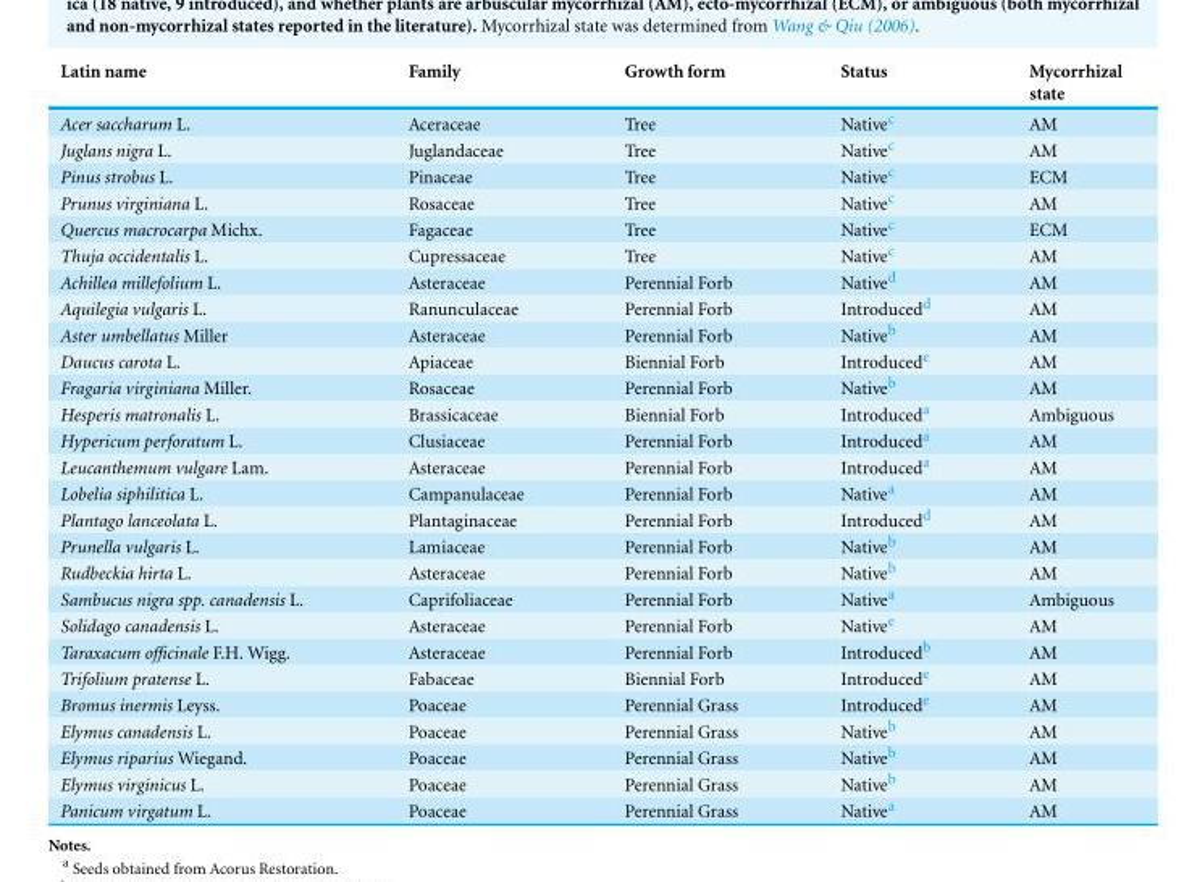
<table><thead><tr><td>Latin name</td><td>Family</td><td>Growth form</td><td>Status</td><td>Mycorrhizal state</td></tr></thead><tbody><tr><td>Acer saccharum L.</td><td>Aceraceae</td><td>Tree</td><td>Native<sup>c</sup></td><td>AM</td></tr><tr><td>Juglans nigra L.</td><td>Juglandaceae</td><td>Tree</td><td>Native<sup>c</sup></td><td>AM</td></tr><tr><td>Pinus strobus L.</td><td>Pinaceae</td><td>Tree</td><td>Native<sup>c</sup></td><td>ECM</td></tr><tr><td>Prunus virginiana L.</td><td>Rosaceae</td><td>Tree</td><td>Native<sup>c</sup></td><td>AM</td></tr><tr><td>Quercus macrocarpa Michx.</td><td>Fagaceae</td><td>Tree</td><td>Native<sup>c</sup></td><td>ECM</td></tr><tr><td>Thuja occidentalis L.</td><td>Cupressaceae</td><td>Tree</td><td>Native<sup>c</sup></td><td>AM</td></tr><tr><td>Achillea millefolium L.</td><td>Asteraceae</td><td>Perennial Forb</td><td>Native<sup>d</sup></td><td>AM</td></tr><tr><td>Aquilegia vulgaris L.</td><td>Ranunculaceae</td><td>Perennial Forb</td><td>Introduced<sup>d</sup></td><td>AM</td></tr><tr><td>Aster umbellatus Miller</td><td>Asteraceae</td><td>Perennial Forb</td><td>Native<sup>b</sup></td><td>AM</td></tr><tr><td>Daucus carota L.</td><td>Apiaceae</td><td>Biennial Forb</td><td>Introduced<sup>e</sup></td><td>AM</td></tr><tr><td>Fragaria virginiana Miller.</td><td>Rosaceae</td><td>Perennial Forb</td><td>Native<sup>b</sup></td><td>AM</td></tr><tr><td>Hesperis matronalis L.</td><td>Brassicaceae</td><td>Biennial Forb</td><td>Introduced<sup>a</sup></td><td>Ambiguous</td></tr><tr><td>Hypericum perforatum L.</td><td>Clusiaceae</td><td>Perennial Forb</td><td>Introduced<sup>a</sup></td><td>AM</td></tr><tr><td>Leucanthemum vulgare Lam.</td><td>Asteraceae</td><td>Perennial Forb</td><td>Introduced<sup>a</sup></td><td>AM</td></tr><tr><td>Lobelia siphilitica L.</td><td>Campanulaceae</td><td>Perennial Forb</td><td>Native<sup>a</sup></td><td>AM</td></tr><tr><td>Plantago lanceolata L.</td><td>Plantaginaceae</td><td>Perennial Forb</td><td>Introduced<sup>d</sup></td><td>AM</td></tr><tr><td>Prunella vulgaris L.</td><td>Lamiaceae</td><td>Perennial Forb</td><td>Native<sup>b</sup></td><td>AM</td></tr><tr><td>Rudbeckia hirta L.</td><td>Asteraceae</td><td>Perennial Forb</td><td>Native<sup>b</sup></td><td>AM</td></tr><tr><td>Sambucus nigra spp. canadensis L.</td><td>Caprifoliaceae</td><td>Perennial Forb</td><td>Native<sup>a</sup></td><td>Ambiguous</td></tr><tr><td>Solidago canadensis L.</td><td>Asteraceae</td><td>Perennial Forb</td><td>Native<sup>e</sup></td><td>AM</td></tr><tr><td>Taraxacum officinale F.H. Wigg.</td><td>Asteraceae</td><td>Perennial Forb</td><td>Introduced<sup>b</sup></td><td>AM</td></tr><tr><td>Trifolium pratense L.</td><td>Fabaceae</td><td>Biennial Forb</td><td>Introduced<sup>e</sup></td><td>AM</td></tr><tr><td>Bromus inermis Leyss.</td><td>Poaceae</td><td>Perennial Grass</td><td>Introduced<sup>e</sup></td><td>AM</td></tr><tr><td>Elymus canadensis L.</td><td>Poaceae</td><td>Perennial Grass</td><td>Native<sup>b</sup></td><td>AM</td></tr><tr><td>Elymus riparius Wiegand.</td><td>Poaceae</td><td>Perennial Grass</td><td>Native<sup>b</sup></td><td>AM</td></tr><tr><td>Elymus virginicus L.</td><td>Poaceae</td><td>Perennial Grass</td><td>Native<sup>b</sup></td><td>AM</td></tr><tr><td>Panicum virgatum L.</td><td>Poaceae</td><td>Perennial Grass</td><td>Native<sup>a</sup></td><td>AM</td></tr></tbody></table>